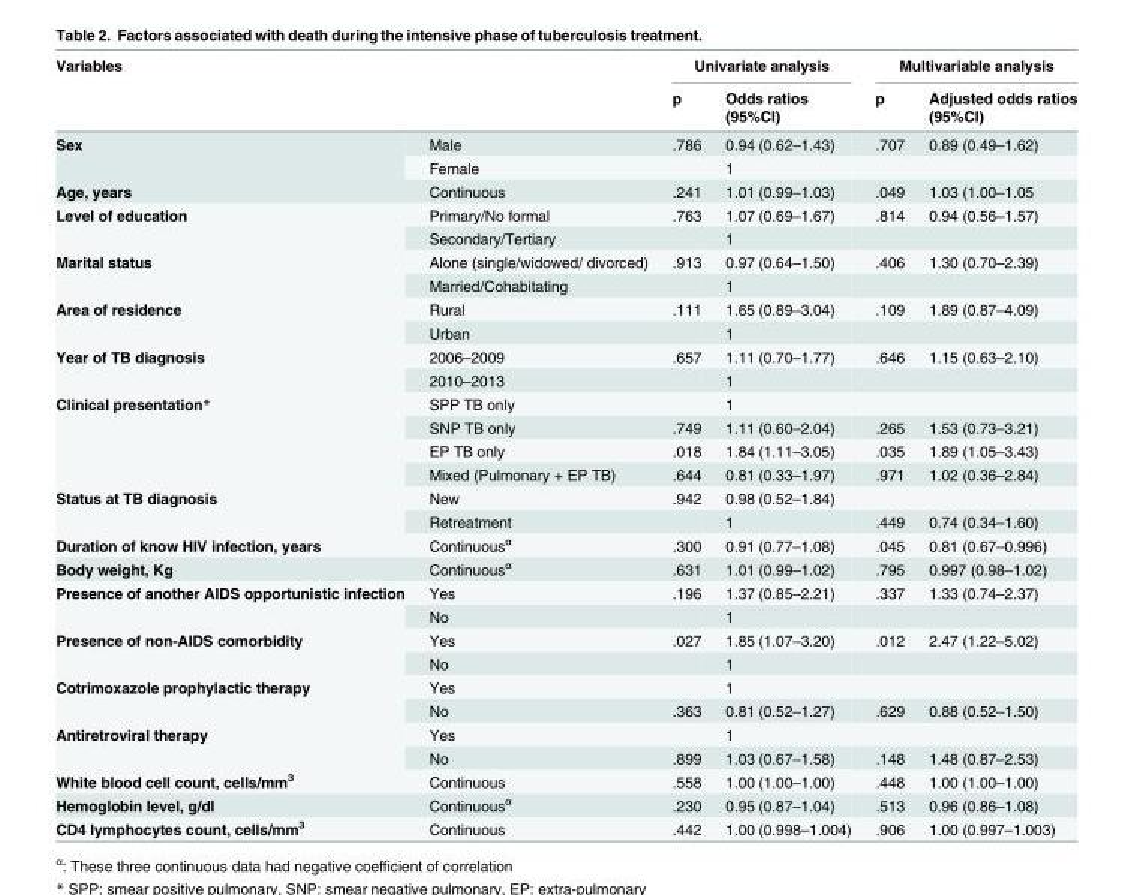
<table><thead><tr><td rowspan="2">Variables</td><td rowspan="2"></td><td colspan="2">Univariate analysis</td><td colspan="2">Multivariable analysis</td></tr><tr><td>p</td><td>Odds ratios (95%CI)</td><td>p</td><td>Adjusted odds ratios (95%CI)</td></tr></thead><tbody><tr><td rowspan="2">Sex</td><td>Male</td><td>.786</td><td>0.94 (0.62–1.43)</td><td>.707</td><td>0.89 (0.49–1.62)</td></tr><tr><td>Female</td><td></td><td>1</td><td></td><td></td></tr><tr><td>Age, years</td><td>Continuous</td><td>.241</td><td>1.01 (0.99–1.03)</td><td>.049</td><td>1.03 (1.00–1.05</td></tr><tr><td rowspan="2">Level of education</td><td>Primary/No formal</td><td>.763</td><td>1.07 (0.69–1.67)</td><td>.814</td><td>0.94 (0.56–1.57)</td></tr><tr><td>Secondary/Tertiary</td><td></td><td>1</td><td></td><td></td></tr><tr><td rowspan="2">Marital status</td><td>Alone (single/widowed/ divorced)</td><td>.913</td><td>0.97 (0.64–1.50)</td><td>.406</td><td>1.30 (0.70–2.39)</td></tr><tr><td>Married/Cohabitating</td><td></td><td>1</td><td></td><td></td></tr><tr><td rowspan="2">Area of residence</td><td>Rural</td><td>.111</td><td>1.65 (0.89–3.04)</td><td>.109</td><td>1.89 (0.87–4.09)</td></tr><tr><td>Urban</td><td></td><td>1</td><td></td><td></td></tr><tr><td rowspan="2">Year of TB diagnosis</td><td>2006–2009</td><td>.657</td><td>1.11 (0.70–1.77)</td><td>.646</td><td>1.15 (0.63–2.10)</td></tr><tr><td>2010–2013</td><td></td><td>1</td><td></td><td></td></tr><tr><td rowspan="4">Clinical presentation*</td><td>SPP TB only</td><td></td><td>1</td><td></td><td></td></tr><tr><td>SNP TB only</td><td>.749</td><td>1.11 (0.60–2.04)</td><td>.265</td><td>1.53 (0.73–3.21)</td></tr><tr><td>EP TB only</td><td>.018</td><td>1.84 (1.11–3.05)</td><td>.035</td><td>1.89 (1.05–3.43)</td></tr><tr><td>Mixed (Pulmonary + EP TB)</td><td>.644</td><td>0.81 (0.33–1.97)</td><td>.971</td><td>1.02 (0.36–2.84)</td></tr><tr><td rowspan="2">Status at TB diagnosis</td><td>New</td><td>.942</td><td>0.98 (0.52–1.84)</td><td></td><td></td></tr><tr><td>Retreatment</td><td></td><td>1</td><td>.449</td><td>0.74 (0.34–1.60)</td></tr><tr><td>Duration of know HIV infection, years</td><td>Continuous<sup>α</sup></td><td>.300</td><td>0.91 (0.77–1.08)</td><td>.045</td><td>0.81 (0.67–0.996)</td></tr><tr><td>Body weight, Kg</td><td>Continuous<sup>α</sup></td><td>.631</td><td>1.01 (0.99–1.02)</td><td>.795</td><td>0.997 (0.98–1.02)</td></tr><tr><td rowspan="2">Presence of another AIDS opportunistic infection</td><td>Yes</td><td>.196</td><td>1.37 (0.85–2.21)</td><td>.337</td><td>1.33 (0.74–2.37)</td></tr><tr><td>No</td><td></td><td>1</td><td></td><td></td></tr><tr><td rowspan="2">Presence of non-AIDS comorbidity</td><td>Yes</td><td>.027</td><td>1.85 (1.07–3.20)</td><td>.012</td><td>2.47 (1.22–5.02)</td></tr><tr><td>No</td><td></td><td>1</td><td></td><td></td></tr><tr><td rowspan="2">Cotrimoxazole prophylactic therapy</td><td>Yes</td><td></td><td>1</td><td></td><td></td></tr><tr><td>No</td><td>.363</td><td>0.81 (0.52–1.27)</td><td>.629</td><td>0.88 (0.52–1.50)</td></tr><tr><td rowspan="2">Antiretroviral therapy</td><td>Yes</td><td></td><td>1</td><td></td><td></td></tr><tr><td>No</td><td>.899</td><td>1.03 (0.67–1.58)</td><td>.148</td><td>1.48 (0.87–2.53)</td></tr><tr><td>White blood cell count, cells/mm<sup>3</sup></td><td>Continuous</td><td>.558</td><td>1.00 (1.00–1.00)</td><td>.448</td><td>1.00 (1.00–1.00)</td></tr><tr><td>Hemoglobin level, g/dl</td><td>Continuous<sup>α</sup></td><td>.230</td><td>0.95 (0.87–1.04)</td><td>.513</td><td>0.96 (0.86–1.08)</td></tr><tr><td>CD4 lymphocytes count, cells/mm<sup>3</sup></td><td>Continuous</td><td>.442</td><td>1.00 (0.998–1.004)</td><td>.906</td><td>1.00 (0.997–1.003)</td></tr></tbody></table>